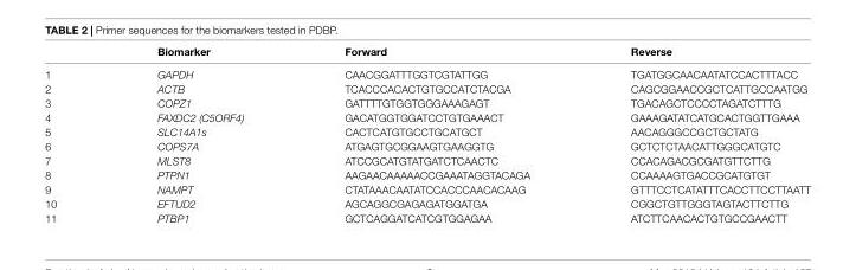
<table><thead><tr><td></td><td>Biomarker</td><td>Forward</td><td>Reverse</td></tr></thead><tbody><tr><td>1</td><td>GAPDH</td><td>CAACGGATTTGGTCGTATTGG</td><td>TGATGGCAACAATATCCACTTTACC</td></tr><tr><td>2</td><td>ACTB</td><td>TCACCCACACTGTGCCATCTACGA</td><td>CAGCGGAACCGCTCATTGCCAATGG</td></tr><tr><td>3</td><td>COPZ1</td><td>GATTTTGTGGTGGGAAAGAGT</td><td>TGACAGCTCCCCTAGATCTTTG</td></tr><tr><td>4</td><td>FAXDC2 (C5ORF4)</td><td>GACATGGTGGATCCTGTGAAACT</td><td>GAAAGATATCATGCACTGGTTGAAA</td></tr><tr><td>5</td><td>SLC14A1s</td><td>CACTCATGTGCCTGCATGCT</td><td>AACAGGGCCGCTGCTATG</td></tr><tr><td>6</td><td>COPS7A</td><td>ATGAGTGCGGAAGTGAAGGTG</td><td>GCTCTCTAACATTGGGCATGTC</td></tr><tr><td>7</td><td>MLST8</td><td>ATCCGCATGTATGATCTCAACTC</td><td>CCACAGACGCGATGTTCTTG</td></tr><tr><td>8</td><td>PTPN1</td><td>AAGAACAAAAACCGAAATAGGTACAGA</td><td>CCAAAAGTGACCGCATGTGT</td></tr><tr><td>9</td><td>NAMPT</td><td>CTATAAACAATATCCACCCAACACAAG</td><td>GTTTCCTCATATTTCACCTTCCTTAATT</td></tr><tr><td>10</td><td>EFTUD2</td><td>AGCAGGCGAGAGATGGATGA</td><td>CGGCTGTTGGGTAGTACTTCTTG</td></tr><tr><td>11</td><td>PTBP1</td><td>GCTCAGGATCATCGTGGAGAA</td><td>ATCTTCAACACTGTGCCGAACTT</td></tr></tbody></table>